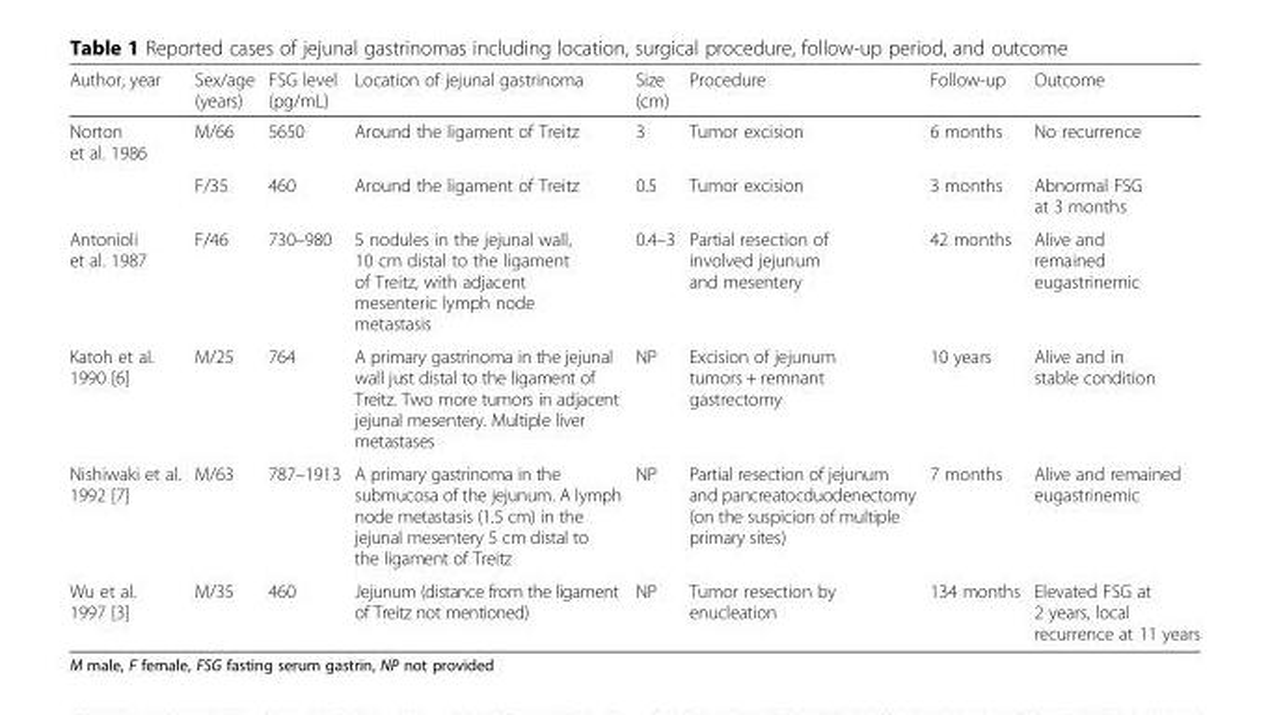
<table><thead><tr><td>Author, year</td><td>Sex/age (years)</td><td>FSG level (pg/mL)</td><td>Location of jejunal gastrinoma</td><td>Size (cm)</td><td>Procedure</td><td>Follow-up</td><td>Outcome</td></tr></thead><tbody><tr><td rowspan="2">Norton et al. 1986</td><td>M/66</td><td>5650</td><td>Around the ligament of Treitz</td><td>3</td><td>Tumor excision</td><td>6 months</td><td>No recurrence</td></tr><tr><td>F/35</td><td>460</td><td>Around the ligament of Treitz</td><td>0.5</td><td>Tumor excision</td><td>3 months</td><td>Abnormal FSG at 3 months</td></tr><tr><td>Antonioli et al. 1987</td><td>F/46</td><td>730–980</td><td>5 nodules in the jejunal wall, 10 cm distal to the ligament of Treitz, with adjacent mesenteric lymph node metastasis</td><td>0.4–3</td><td>Partial resection of involved jejunum and mesentery</td><td>42 months</td><td>Alive and remained eugastrinemic</td></tr><tr><td>Katoh et al. 1990 [6]</td><td>M/25</td><td>764</td><td>A primary gastrinoma in the jejunal wall just distal to the ligament of Treitz. Two more tumors in adjacent jejunal mesentery. Multiple liver metastases</td><td>NP</td><td>Excision of jejunum tumors + remnant gastrectomy</td><td>10 years</td><td>Alive and in stable condition</td></tr><tr><td>Nishiwaki et al. 1992 [7]</td><td>M/63</td><td>787–1913</td><td>A primary gastrinoma in the submucosa of the jejunum. A lymph node metastasis (1.5 cm) in the jejunal mesentery 5 cm distal to the ligament of Treitz</td><td>NP</td><td>Partial resection of jejunum and pancreatocduodenectomy (on the suspicion of multiple primary sites)</td><td>7 months</td><td>Alive and remained eugastrinemic</td></tr><tr><td>Wu et al. 1997 [3]</td><td>M/35</td><td>460</td><td>Jejunum (distance from the ligament of Treitz not mentioned)</td><td>NP</td><td>Tumor resection by enucleation</td><td>134 months</td><td>Elevated FSG at 2 years, local recurrence at 11 years</td></tr></tbody></table>